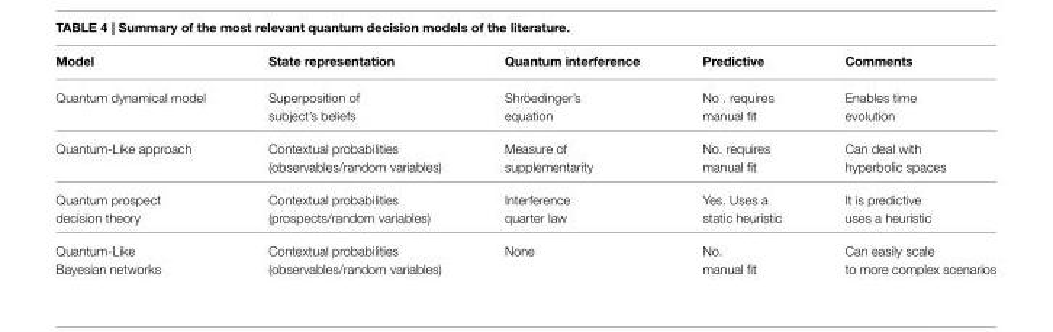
<table><thead><tr><td>Model</td><td>State representation</td><td>Quantum interference</td><td>Predictive</td><td>Comments</td></tr></thead><tbody><tr><td>Quantum dynamical model</td><td>Superposition of subject’s beliefs</td><td>Shröedinger’s equation</td><td>No . requires manual fit</td><td>Enables time evolution</td></tr><tr><td>Quantum-Like approach</td><td>Contextual probabilities (observables/random variables)</td><td>Measure of supplementarity</td><td>No. requires manual fit</td><td>Can deal with hyperbolic spaces</td></tr><tr><td>Quantum prospect decision theory</td><td>Contextual probabilities (prospects/random variables)</td><td>Interference quarter law</td><td>Yes. Uses a static heuristic</td><td>It is predictive uses a heuristic</td></tr><tr><td>Quantum-Like Bayesian networks</td><td>Contextual probabilities (observables/random variables)</td><td>None</td><td>No. manual fit</td><td>Can easily scale to more complex scenarios</td></tr></tbody></table>